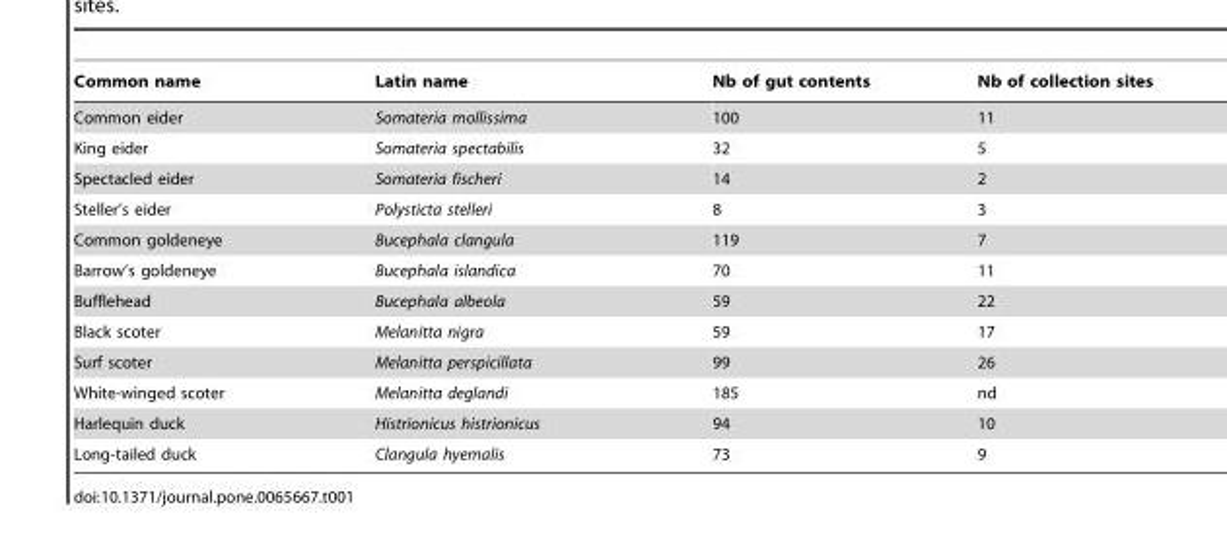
<table><thead><tr><td>Common name</td><td>Latin name</td><td>Nb of gut contents</td><td>Nb of collection sites</td></tr></thead><tbody><tr><td>Common eider</td><td>Somateria mollissima</td><td>100</td><td>11</td></tr><tr><td>King eider</td><td>Somateria spectabilis</td><td>32</td><td>5</td></tr><tr><td>Spectacled eider</td><td>Somateria fischeri</td><td>14</td><td>2</td></tr><tr><td>Steller’s eider</td><td>Polysticta stelleri</td><td>8</td><td>3</td></tr><tr><td>Common goldeneye</td><td>Bucephala clangula</td><td>119</td><td>7</td></tr><tr><td>Barrow’s goldeneye</td><td>Bucephala islandica</td><td>70</td><td>11</td></tr><tr><td>Bufflehead</td><td>Bucephala albeola</td><td>59</td><td>22</td></tr><tr><td>Black scoter</td><td>Melanitta nigra</td><td>59</td><td>17</td></tr><tr><td>Surf scoter</td><td>Melanitta perspicillata</td><td>99</td><td>26</td></tr><tr><td>White-winged scoter</td><td>Melanitta deglandi</td><td>185</td><td>nd</td></tr><tr><td>Harlequin duck</td><td>Histrionicus histrionicus</td><td>94</td><td>10</td></tr><tr><td>Long-tailed duck</td><td>Clangula hyemalis</td><td>73</td><td>9</td></tr></tbody></table>